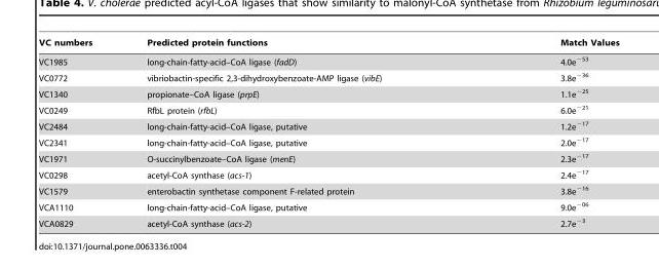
<table><thead><tr><td>VC numbers</td><td>Predicted protein functions</td><td>Match Values</td></tr></thead><tbody><tr><td>VC1985</td><td>long-chain-fatty-acid–CoA ligase (fadD)</td><td>4.0e<sup>−53</sup></td></tr><tr><td>VC0772</td><td>vibriobactin-specific 2,3-dihydroxybenzoate-AMP ligase (vibE)</td><td>3.8e<sup>−36</sup></td></tr><tr><td>VC1340</td><td>propionate–CoA ligase (prpE)</td><td>1.1e<sup>−25</sup></td></tr><tr><td>VC0249</td><td>RfbL protein (rfbL)</td><td>6.0e<sup>−21</sup></td></tr><tr><td>VC2484</td><td>long-chain-fatty-acid–CoA ligase, putative</td><td>1.2e<sup>−17</sup></td></tr><tr><td>VC2341</td><td>long-chain-fatty-acid–CoA ligase, putative</td><td>2.0e<sup>−17</sup></td></tr><tr><td>VC1971</td><td>O-succinylbenzoate–CoA ligase (menE)</td><td>2.3e<sup>−17</sup></td></tr><tr><td>VC0298</td><td>acetyl-CoA synthase (acs-1)</td><td>2.4e<sup>−17</sup></td></tr><tr><td>VC1579</td><td>enterobactin synthetase component F-related protein</td><td>3.8e<sup>−16</sup></td></tr><tr><td>VCA1110</td><td>long-chain-fatty-acid–CoA ligase, putative</td><td>9.0e<sup>−06</sup></td></tr><tr><td>VCA0829</td><td>acetyl-CoA synthase (acs-2)</td><td>2.7e<sup>−3</sup></td></tr></tbody></table>